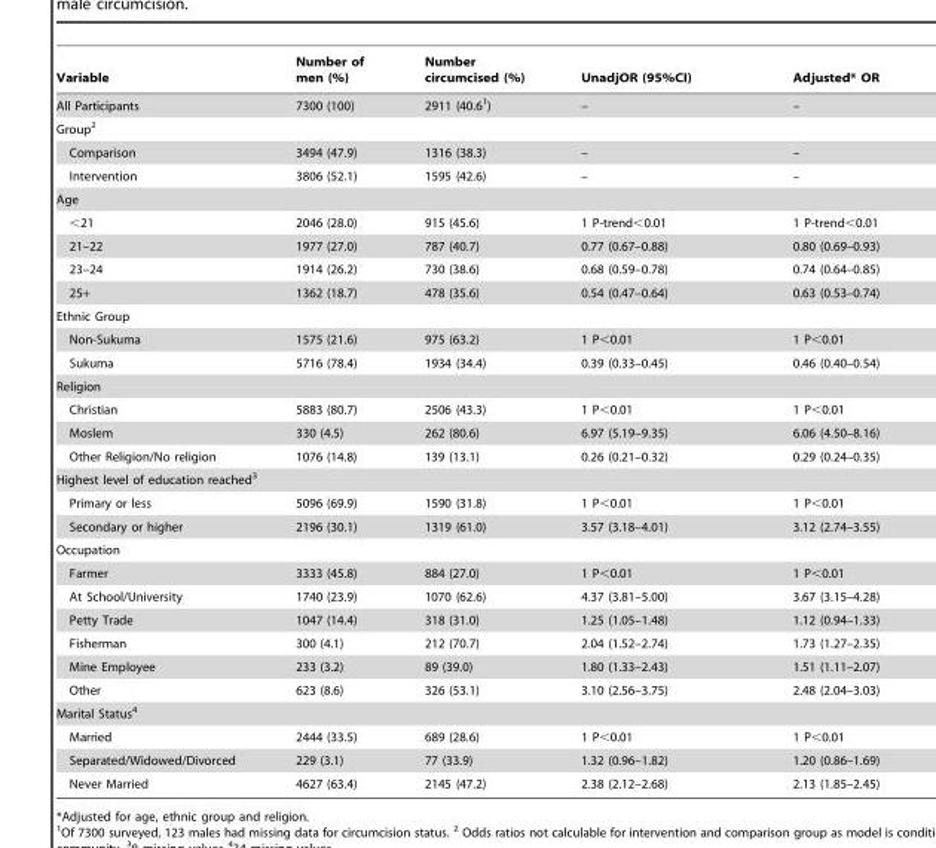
<table><thead><tr><td>Variable</td><td>Number of men (%)</td><td>Number circumcised (%)</td><td>UnadjOR (95%CI)</td><td>Adjusted* OR</td></tr></thead><tbody><tr><td>All Participants</td><td>7300 (100)</td><td>2911 (40.6<sup>1</sup>)</td><td>–</td><td>–</td></tr><tr><td colspan="5">Group<sup>2</sup></td></tr><tr><td>Comparison</td><td>3494 (47.9)</td><td>1316 (38.3)</td><td>–</td><td>–</td></tr><tr><td>Intervention</td><td>3806 (52.1)</td><td>1595 (42.6)</td><td>–</td><td>–</td></tr><tr><td colspan="5">Age</td></tr><tr><td>&lt;21</td><td>2046 (28.0)</td><td>915 (45.6)</td><td>1 P-trend&lt;0.01</td><td>1 P-trend&lt;0.01</td></tr><tr><td>21–22</td><td>1977 (27.0)</td><td>787 (40.7)</td><td>0.77 (0.67–0.88)</td><td>0.80 (0.69–0.93)</td></tr><tr><td>23–24</td><td>1914 (26.2)</td><td>730 (38.6)</td><td>0.68 (0.59–0.78)</td><td>0.74 (0.64–0.85)</td></tr><tr><td>25+</td><td>1362 (18.7)</td><td>478 (35.6)</td><td>0.54 (0.47–0.64)</td><td>0.63 (0.53–0.74)</td></tr><tr><td colspan="5">Ethnic Group</td></tr><tr><td>Non-Sukuma</td><td>1575 (21.6)</td><td>975 (63.2)</td><td>1 P&lt;0.01</td><td>1 P&lt;0.01</td></tr><tr><td>Sukuma</td><td>5716 (78.4)</td><td>1934 (34.4)</td><td>0.39 (0.33–0.45)</td><td>0.46 (0.40–0.54)</td></tr><tr><td colspan="5">Religion</td></tr><tr><td>Christian</td><td>5883 (80.7)</td><td>2506 (43.3)</td><td>1 P&lt;0.01</td><td>1 P&lt;0.01</td></tr><tr><td>Moslem</td><td>330 (4.5)</td><td>262 (80.6)</td><td>6.97 (5.19–9.35)</td><td>6.06 (4.50–8.16)</td></tr><tr><td>Other Religion/No religion</td><td>1076 (14.8)</td><td>139 (13.1)</td><td>0.26 (0.21–0.32)</td><td>0.29 (0.24–0.35)</td></tr><tr><td colspan="5">Highest level of education reached<sup>3</sup></td></tr><tr><td>Primary or less</td><td>5096 (69.9)</td><td>1590 (31.8)</td><td>1 P&lt;0.01</td><td>1 P&lt;0.01</td></tr><tr><td>Secondary or higher</td><td>2196 (30.1)</td><td>1319 (61.0)</td><td>3.57 (3.18–4.01)</td><td>3.12 (2.74–3.55)</td></tr><tr><td colspan="5">Occupation</td></tr><tr><td>Farmer</td><td>3333 (45.8)</td><td>884 (27.0)</td><td>1 P&lt;0.01</td><td>1 P&lt;0.01</td></tr><tr><td>At School/University</td><td>1740 (23.9)</td><td>1070 (62.6)</td><td>4.37 (3.81–5.00)</td><td>3.67 (3.15–4.28)</td></tr><tr><td>Petty Trade</td><td>1047 (14.4)</td><td>318 (31.0)</td><td>1.25 (1.05–1.48)</td><td>1.12 (0.94–1.33)</td></tr><tr><td>Fisherman</td><td>300 (4.1)</td><td>212 (70.7)</td><td>2.04 (1.52–2.74)</td><td>1.73 (1.27–2.35)</td></tr><tr><td>Mine Employee</td><td>233 (3.2)</td><td>89 (39.0)</td><td>1.80 (1.33–2.43)</td><td>1.51 (1.11–2.07)</td></tr><tr><td>Other</td><td>623 (8.6)</td><td>326 (53.1)</td><td>3.10 (2.56–3.75)</td><td>2.48 (2.04–3.03)</td></tr><tr><td colspan="5">Marital Status<sup>4</sup></td></tr><tr><td>Married</td><td>2444 (33.5)</td><td>689 (28.6)</td><td>1 P&lt;0.01</td><td>1 P&lt;0.01</td></tr><tr><td>Separated/Widowed/Divorced</td><td>229 (3.1)</td><td>77 (33.9)</td><td>1.32 (0.96–1.82)</td><td>1.20 (0.86–1.69)</td></tr><tr><td>Never Married</td><td>4627 (63.4)</td><td>2145 (47.2)</td><td>2.38 (2.12–2.68)</td><td>2.13 (1.85–2.45)</td></tr></tbody></table>